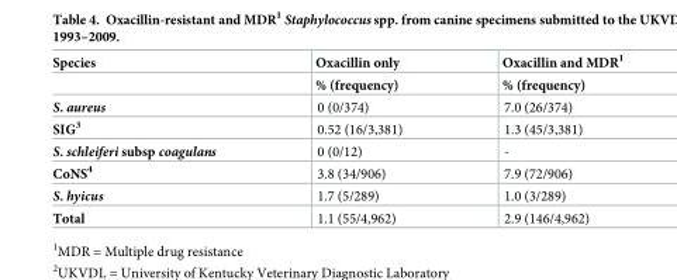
<table><thead><tr><td rowspan="2">Species</td><td rowspan="2">Oxacillin only % (frequency)</td><td rowspan="2">Oxacillin and MDR<sup>1</sup> % (frequency)</td></tr><tr></tr></thead><tbody><tr><td>S. aureus</td><td>0 (0/374)</td><td>7.0 (26/374)</td></tr><tr><td>SIG<sup>3</sup></td><td>0.52 (16/3,381)</td><td>1.3 (45/3,381)</td></tr><tr><td>S. schleiferi subsp coagulans</td><td>0 (0/12)</td><td>-</td></tr><tr><td>CoNS<sup>4</sup></td><td>3.8 (34/906)</td><td>7.9 (72/906)</td></tr><tr><td>S. hyicus</td><td>1.7 (5/289)</td><td>1.0 (3/289)</td></tr><tr><td>Total</td><td>1.1 (55/4,962)</td><td>2.9 (146/4,962)</td></tr></tbody></table>